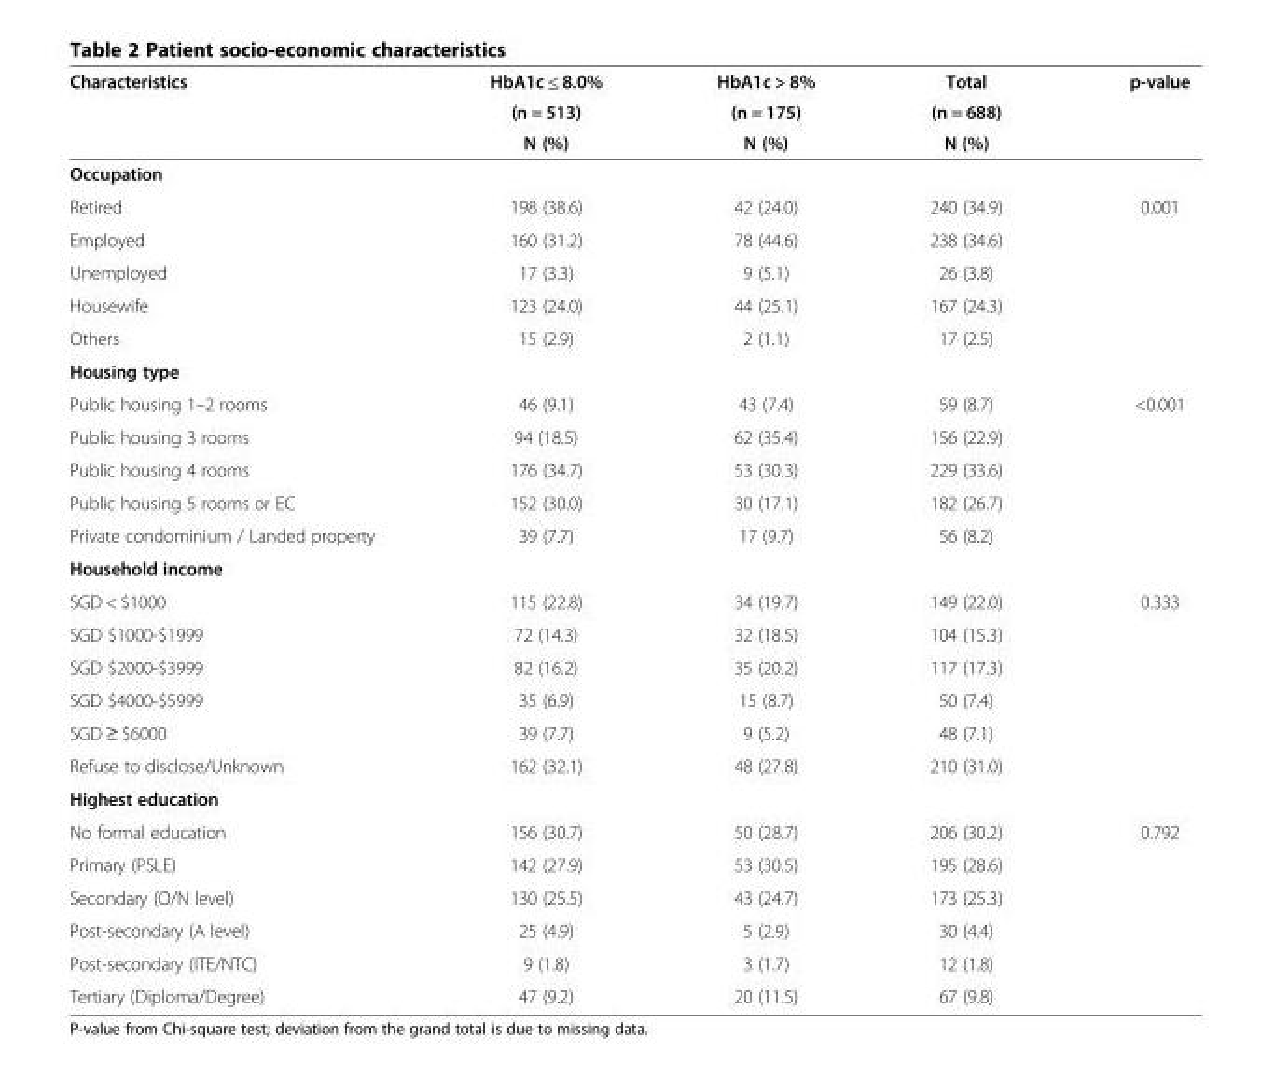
<table><thead><tr><td rowspan="3">Characteristics</td><td rowspan="3">HbA1c ≤ 8.0% (n = 513) N (%)</td><td rowspan="3">HbA1c &gt; 8% (n = 175) N (%)</td><td rowspan="3">Total (n = 688) N (%)</td><td rowspan="3">p-value</td></tr><tr></tr><tr></tr></thead><tbody><tr><td colspan="5">Occupation</td></tr><tr><td>Retired</td><td>198 (38.6)</td><td>42 (24.0)</td><td>240 (34.9)</td><td>0.001</td></tr><tr><td>Employed</td><td>160 (31.2)</td><td>78 (44.6)</td><td>238 (34.6)</td><td></td></tr><tr><td>Unemployed</td><td>17 (3.3)</td><td>9 (5.1)</td><td>26 (3.8)</td><td></td></tr><tr><td>Housewife</td><td>123 (24.0)</td><td>44 (25.1)</td><td>167 (24.3)</td><td></td></tr><tr><td>Others</td><td>15 (2.9)</td><td>2 (1.1)</td><td>17 (2.5)</td><td></td></tr><tr><td colspan="5">Housing type</td></tr><tr><td>Public housing 1–2 rooms</td><td>46 (9.1)</td><td>43 (7.4)</td><td>59 (8.7)</td><td>&lt;0.001</td></tr><tr><td>Public housing 3 rooms</td><td>94 (18.5)</td><td>62 (35.4)</td><td>156 (22.9)</td><td></td></tr><tr><td>Public housing 4 rooms</td><td>176 (34.7)</td><td>53 (30.3)</td><td>229 (33.6)</td><td></td></tr><tr><td>Public housing 5 rooms or EC</td><td>152 (30.0)</td><td>30 (17.1)</td><td>182 (26.7)</td><td></td></tr><tr><td>Private condominium / Landed property</td><td>39 (7.7)</td><td>17 (9.7)</td><td>56 (8.2)</td><td></td></tr><tr><td colspan="5">Household income</td></tr><tr><td>SGD &lt; $1000</td><td>115 (22.8)</td><td>34 (19.7)</td><td>149 (22.0)</td><td>0.333</td></tr><tr><td>SGD $1000-$1999</td><td>72 (14.3)</td><td>32 (18.5)</td><td>104 (15.3)</td><td></td></tr><tr><td>SGD $2000-$3999</td><td>82 (16.2)</td><td>35 (20.2)</td><td>117 (17.3)</td><td></td></tr><tr><td>SGD $4000-$5999</td><td>35 (6.9)</td><td>15 (8.7)</td><td>50 (7.4)</td><td></td></tr><tr><td>SGD ≥ $6000</td><td>39 (7.7)</td><td>9 (5.2)</td><td>48 (7.1)</td><td></td></tr><tr><td>Refuse to disclose/Unknown</td><td>162 (32.1)</td><td>48 (27.8)</td><td>210 (31.0)</td><td></td></tr><tr><td colspan="5">Highest education</td></tr><tr><td>No formal education</td><td>156 (30.7)</td><td>50 (28.7)</td><td>206 (30.2)</td><td>0.792</td></tr><tr><td>Primary (PSLE)</td><td>142 (27.9)</td><td>53 (30.5)</td><td>195 (28.6)</td><td></td></tr><tr><td>Secondary (O/N level)</td><td>130 (25.5)</td><td>43 (24.7)</td><td>173 (25.3)</td><td></td></tr><tr><td>Post-secondary (A level)</td><td>25 (4.9)</td><td>5 (2.9)</td><td>30 (4.4)</td><td></td></tr><tr><td>Post-secondary (ITE/NTC)</td><td>9 (1.8)</td><td>3 (1.7)</td><td>12 (1.8)</td><td></td></tr><tr><td>Tertiary (Diploma/Degree)</td><td>47 (9.2)</td><td>20 (11.5)</td><td>67 (9.8)</td><td></td></tr></tbody></table>